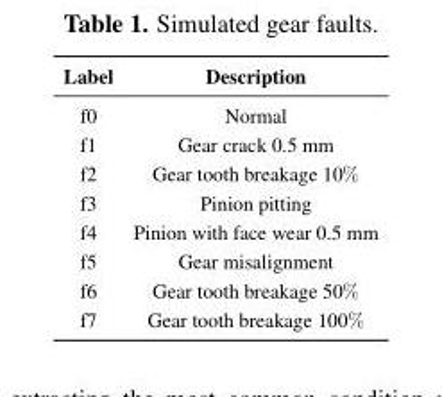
<table><thead><tr><td>Label</td><td>Description</td></tr></thead><tbody><tr><td>f0</td><td>Normal</td></tr><tr><td>f1</td><td>Gear crack 0.5 mm</td></tr><tr><td>f2</td><td>Gear tooth breakage 10%</td></tr><tr><td>f3</td><td>Pinion pitting</td></tr><tr><td>f4</td><td>Pinion with face wear 0.5 mm</td></tr><tr><td>f5</td><td>Gear misalignment</td></tr><tr><td>f6</td><td>Gear tooth breakage 50%</td></tr><tr><td>f7</td><td>Gear tooth breakage 100%</td></tr></tbody></table>